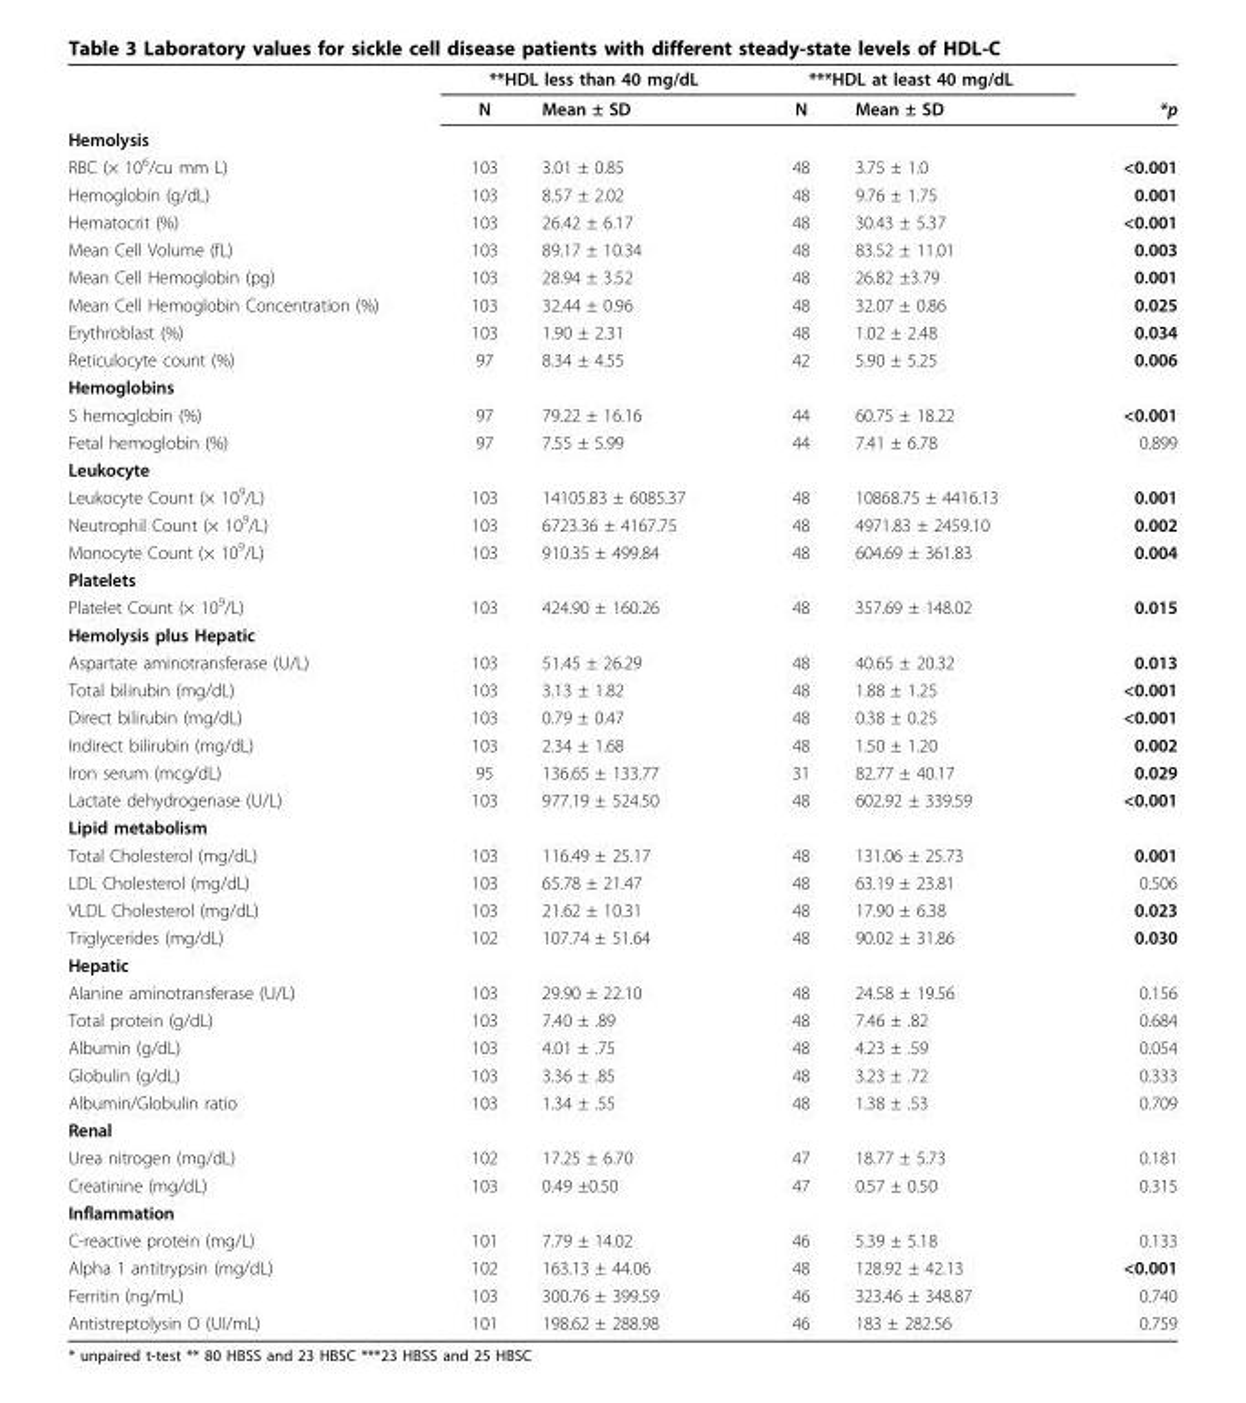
<table><thead><tr><td rowspan="2"></td><td colspan="2">**HDL less than 40 mg/dL</td><td colspan="2">***HDL at least 40 mg/dL</td><td rowspan="2">*p</td></tr><tr><td>N</td><td>Mean ± SD</td><td>N</td><td>Mean ± SD</td></tr></thead><tbody><tr><td colspan="6">Hemolysis</td></tr><tr><td>RBC (× 10<sup>6</sup>/cu mm L)</td><td>103</td><td>3.01 ± 0.85</td><td>48</td><td>3.75 ± 1.0</td><td>&lt;0.001</td></tr><tr><td>Hemoglobin (g/dL)</td><td>103</td><td>8.57 ± 2.02</td><td>48</td><td>9.76 ± 1.75</td><td>0.001</td></tr><tr><td>Hematocrit (%)</td><td>103</td><td>26.42 ± 6.17</td><td>48</td><td>30.43 ± 5.37</td><td>&lt;0.001</td></tr><tr><td>Mean Cell Volume (fL)</td><td>103</td><td>89.17 ± 10.34</td><td>48</td><td>83.52 ± 11.01</td><td>0.003</td></tr><tr><td>Mean Cell Hemoglobin (pg)</td><td>103</td><td>28.94 ± 3.52</td><td>48</td><td>26.82 ±3.79</td><td>0.001</td></tr><tr><td>Mean Cell Hemoglobin Concentration (%)</td><td>103</td><td>32.44 ± 0.96</td><td>48</td><td>32.07 ± 0.86</td><td>0.025</td></tr><tr><td>Erythroblast (%)</td><td>103</td><td>1.90 ± 2.31</td><td>48</td><td>1.02 ± 2.48</td><td>0.034</td></tr><tr><td>Reticulocyte count (%)</td><td>97</td><td>8.34 ± 4.55</td><td>42</td><td>5.90 ± 5.25</td><td>0.006</td></tr><tr><td colspan="6">Hemoglobins</td></tr><tr><td>S hemoglobin (%)</td><td>97</td><td>79.22 ± 16.16</td><td>44</td><td>60.75 ± 18.22</td><td>&lt;0.001</td></tr><tr><td>Fetal hemoglobin (%)</td><td>97</td><td>7.55 ± 5.99</td><td>44</td><td>7.41 ± 6.78</td><td>0.899</td></tr><tr><td colspan="6">Leukocyte</td></tr><tr><td>Leukocyte Count (× 10<sup>9</sup>/L)</td><td>103</td><td>14105.83 ± 6085.37</td><td>48</td><td>10868.75 ± 4416.13</td><td>0.001</td></tr><tr><td>Neutrophil Count (× 10<sup>9</sup>/L)</td><td>103</td><td>6723.36 ± 4167.75</td><td>48</td><td>4971.83 ± 2459.10</td><td>0.002</td></tr><tr><td>Monocyte Count (× 10<sup>9</sup>/L)</td><td>103</td><td>910.35 ± 499.84</td><td>48</td><td>604.69 ± 361.83</td><td>0.004</td></tr><tr><td colspan="6">Platelets</td></tr><tr><td>Platelet Count (× 10<sup>9</sup>/L)</td><td>103</td><td>424.90 ± 160.26</td><td>48</td><td>357.69 ± 148.02</td><td>0.015</td></tr><tr><td colspan="6">Hemolysis plus Hepatic</td></tr><tr><td>Aspartate aminotransferase (U/L)</td><td>103</td><td>51.45 ± 26.29</td><td>48</td><td>40.65 ± 20.32</td><td>0.013</td></tr><tr><td>Total bilirubin (mg/dL)</td><td>103</td><td>3.13 ± 1.82</td><td>48</td><td>1.88 ± 1.25</td><td>&lt;0.001</td></tr><tr><td>Direct bilirubin (mg/dL)</td><td>103</td><td>0.79 ± 0.47</td><td>48</td><td>0.38 ± 0.25</td><td>&lt;0.001</td></tr><tr><td>Indirect bilirubin (mg/dL)</td><td>103</td><td>2.34 ± 1.68</td><td>48</td><td>1.50 ± 1.20</td><td>0.002</td></tr><tr><td>Iron serum (mcg/dL)</td><td>95</td><td>136.65 ± 133.77</td><td>31</td><td>82.77 ± 40.17</td><td>0.029</td></tr><tr><td>Lactate dehydrogenase (U/L)</td><td>103</td><td>977.19 ± 524.50</td><td>48</td><td>602.92 ± 339.59</td><td>&lt;0.001</td></tr><tr><td colspan="6">Lipid metabolism</td></tr><tr><td>Total Cholesterol (mg/dL)</td><td>103</td><td>116.49 ± 25.17</td><td>48</td><td>131.06 ± 25.73</td><td>0.001</td></tr><tr><td>LDL Cholesterol (mg/dL)</td><td>103</td><td>65.78 ± 21.47</td><td>48</td><td>63.19 ± 23.81</td><td>0.506</td></tr><tr><td>VLDL Cholesterol (mg/dL)</td><td>103</td><td>21.62 ± 10.31</td><td>48</td><td>17.90 ± 6.38</td><td>0.023</td></tr><tr><td>Triglycerides (mg/dL)</td><td>102</td><td>107.74 ± 51.64</td><td>48</td><td>90.02 ± 31.86</td><td>0.030</td></tr><tr><td colspan="6">Hepatic</td></tr><tr><td>Alanine aminotransferase (U/L)</td><td>103</td><td>29.90 ± 22.10</td><td>48</td><td>24.58 ± 19.56</td><td>0.156</td></tr><tr><td>Total protein (g/dL)</td><td>103</td><td>7.40 ± .89</td><td>48</td><td>7.46 ± .82</td><td>0.684</td></tr><tr><td>Albumin (g/dL)</td><td>103</td><td>4.01 ± .75</td><td>48</td><td>4.23 ± .59</td><td>0.054</td></tr><tr><td>Globulin (g/dL)</td><td>103</td><td>3.36 ± .85</td><td>48</td><td>3.23 ± .72</td><td>0.333</td></tr><tr><td>Albumin/Globulin ratio</td><td>103</td><td>1.34 ± .55</td><td>48</td><td>1.38 ± .53</td><td>0.709</td></tr><tr><td colspan="6">Renal</td></tr><tr><td>Urea nitrogen (mg/dL)</td><td>102</td><td>17.25 ± 6.70</td><td>47</td><td>18.77 ± 5.73</td><td>0.181</td></tr><tr><td>Creatinine (mg/dL)</td><td>103</td><td>0.49 ±0.50</td><td>47</td><td>0.57 ± 0.50</td><td>0.315</td></tr><tr><td colspan="6">Inflammation</td></tr><tr><td>C-reactive protein (mg/L)</td><td>101</td><td>7.79 ± 14.02</td><td>46</td><td>5.39 ± 5.18</td><td>0.133</td></tr><tr><td>Alpha 1 antitrypsin (mg/dL)</td><td>102</td><td>163.13 ± 44.06</td><td>48</td><td>128.92 ± 42.13</td><td>&lt;0.001</td></tr><tr><td>Ferritin (ng/mL)</td><td>103</td><td>300.76 ± 399.59</td><td>46</td><td>323.46 ± 348.87</td><td>0.740</td></tr><tr><td>Antistreptolysin O (UI/mL)</td><td>101</td><td>198.62 ± 288.98</td><td>46</td><td>183 ± 282.56</td><td>0.759</td></tr></tbody></table>